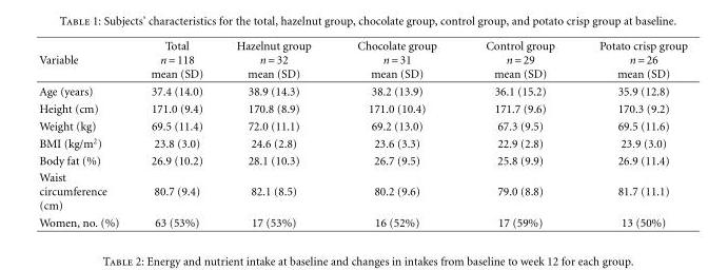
<table><thead><tr><td>Variable</td><td>Total n = 118 mean (SD)</td><td>Hazelnut group n = 32 mean (SD)</td><td>Chocolate group n = 31 mean (SD)</td><td>Control group n = 29 mean (SD)</td><td>Potato crisp group n = 26 mean (SD)</td></tr></thead><tbody><tr><td>Age (years)</td><td>37.4 (14.0)</td><td>38.9 (14.3)</td><td>38.2 (13.9)</td><td>36.1 (15.2)</td><td>35.9 (12.8)</td></tr><tr><td>Height (cm)</td><td>171.0 (9.4)</td><td>170.8 (8.9)</td><td>171.0 (10.4)</td><td>171.7 (9.6)</td><td>170.3 (9.2)</td></tr><tr><td>Weight (kg)</td><td>69.5 (11.4)</td><td>72.0 (11.1)</td><td>69.2 (13.0)</td><td>67.3 (9.5)</td><td>69.5 (11.6)</td></tr><tr><td>BMI (kg/m<sup>2</sup>)</td><td>23.8 (3.0)</td><td>24.6 (2.8)</td><td>23.6 (3.3)</td><td>22.9 (2.8)</td><td>23.9 (3.0)</td></tr><tr><td>Body fat (%)</td><td>26.9 (10.2)</td><td>28.1 (10.3)</td><td>26.7 (9.5)</td><td>25.8 (9.9)</td><td>26.9 (11.4)</td></tr><tr><td>Waist circumference (cm)</td><td>80.7 (9.4)</td><td>82.1 (8.5)</td><td>80.2 (9.6)</td><td>79.0 (8.8)</td><td>81.7 (11.1)</td></tr><tr><td>Women, no. (%)</td><td>63 (53%)</td><td>17 (53%)</td><td>16 (52%)</td><td>17 (59%)</td><td>13 (50%)</td></tr></tbody></table>